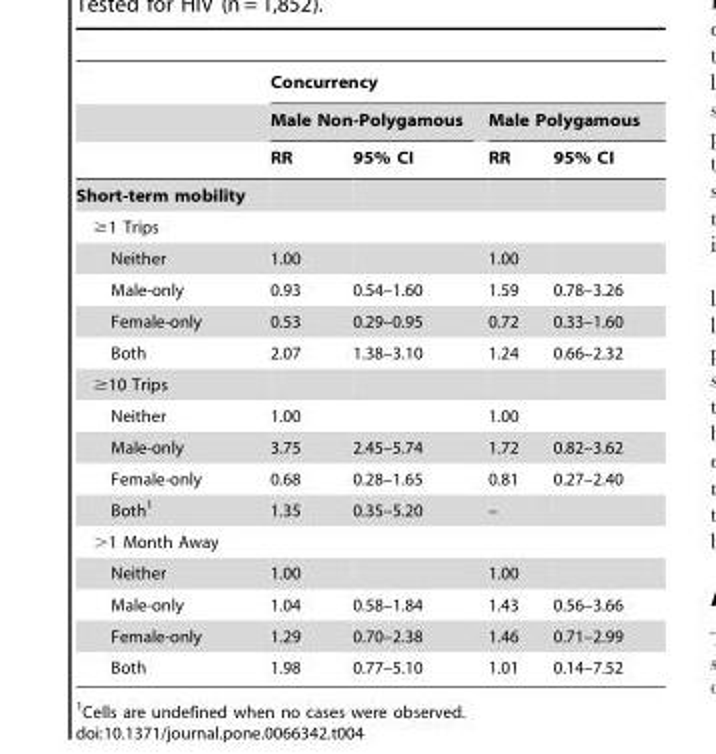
<table><thead><tr><td rowspan="3"></td><td colspan="4">Concurrency</td></tr><tr><td colspan="2">Male Non-Polygamous</td><td colspan="2">Male Polygamous</td></tr><tr><td>RR</td><td>95% CI</td><td>RR</td><td>95% CI</td></tr></thead><tbody><tr><td colspan="5">Short-term mobility</td></tr><tr><td colspan="5">≥1 Trips</td></tr><tr><td>Neither</td><td>1.00</td><td></td><td>1.00</td><td></td></tr><tr><td>Male-only</td><td>0.93</td><td>0.54–1.60</td><td>1.59</td><td>0.78–3.26</td></tr><tr><td>Female-only</td><td>0.53</td><td>0.29–0.95</td><td>0.72</td><td>0.33–1.60</td></tr><tr><td>Both</td><td>2.07</td><td>1.38–3.10</td><td>1.24</td><td>0.66–2.32</td></tr><tr><td colspan="5">≥10 Trips</td></tr><tr><td>Neither</td><td>1.00</td><td></td><td>1.00</td><td></td></tr><tr><td>Male-only</td><td>3.75</td><td>2.45–5.74</td><td>1.72</td><td>0.82–3.62</td></tr><tr><td>Female-only</td><td>0.68</td><td>0.28–1.65</td><td>0.81</td><td>0.27–2.40</td></tr><tr><td>Both<sup>1</sup></td><td>1.35</td><td>0.35–5.20</td><td>–</td><td></td></tr><tr><td colspan="5">&gt;1 Month Away</td></tr><tr><td>Neither</td><td>1.00</td><td></td><td>1.00</td><td></td></tr><tr><td>Male-only</td><td>1.04</td><td>0.58–1.84</td><td>1.43</td><td>0.56–3.66</td></tr><tr><td>Female-only</td><td>1.29</td><td>0.70–2.38</td><td>1.46</td><td>0.71–2.99</td></tr><tr><td>Both</td><td>1.98</td><td>0.77–5.10</td><td>1.01</td><td>0.14–7.52</td></tr></tbody></table>